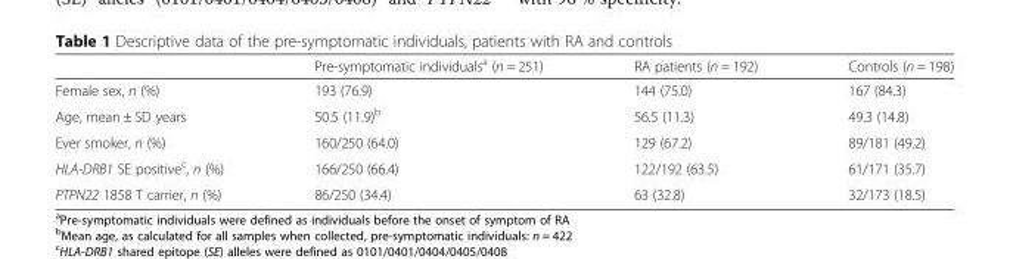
<table><thead><tr><td></td><td>Pre-symptomatic individuals<sup>a</sup> (n = 251)</td><td>RA patients (n = 192)</td><td>Controls (n = 198)</td></tr></thead><tbody><tr><td>Female sex, n (%)</td><td>193 (76.9)</td><td>144 (75.0)</td><td>167 (84.3)</td></tr><tr><td>Age, mean ± SD years</td><td>50.5 (11.9)<sup>b</sup></td><td>56.5 (11.3)</td><td>49.3 (14.8)</td></tr><tr><td>Ever smoker, n (%)</td><td>160/250 (64.0)</td><td>129 (67.2)</td><td>89/181 (49.2)</td></tr><tr><td>HLA-DRB1 SE positive<sup>c</sup>, n (%)</td><td>166/250 (66.4)</td><td>122/192 (63.5)</td><td>61/171 (35.7)</td></tr><tr><td>PTPN22 1858 T carrier, n (%)</td><td>86/250 (34.4)</td><td>63 (32.8)</td><td>32/173 (18.5)</td></tr></tbody></table>